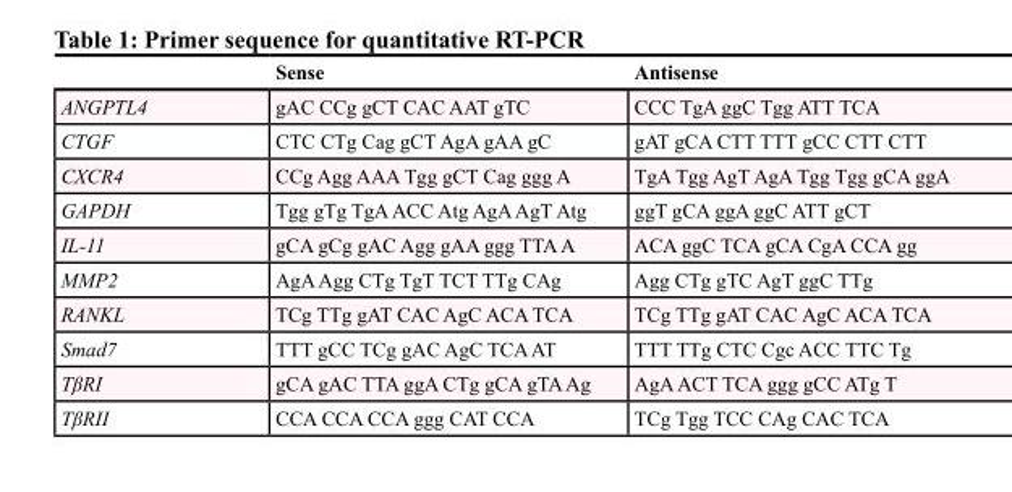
<table><thead><tr><td></td><td>Sense</td><td>Antisense</td></tr></thead><tbody><tr><td>ANGPTL4</td><td>gAC CCg gCT CAC AAT gTC</td><td>CCC TgA ggC Tgg ATT TCA</td></tr><tr><td>CTGF</td><td>CTC CTg Cag gCT AgA gAA gC</td><td>gAT gCA CTT TTT gCC CTT CTT</td></tr><tr><td>CXCR4</td><td>CCg Agg AAA Tgg gCT Cag ggg A</td><td>TgA Tgg AgT AgA Tgg Tgg gCA ggA</td></tr><tr><td>GAPDH</td><td>Tgg gTg TgA ACC Atg AgA AgT Atg</td><td>ggT gCA ggA ggC ATT gCT</td></tr><tr><td>IL-11</td><td>gCA gCg gAC Agg gAA ggg TTA A</td><td>ACA ggC TCA gCA CgA CCA gg</td></tr><tr><td>MMP2</td><td>AgA Agg CTg TgT TCT TTg CAg</td><td>Agg CTg gTC AgT ggC TTg</td></tr><tr><td>RANKL</td><td>TCg TTg gAT CAC AgC ACA TCA</td><td>TCg TTg gAT CAC AgC ACA TCA</td></tr><tr><td>Smad7</td><td>TTT gCC TCg gAC AgC TCA AT</td><td>TTT TTg CTC Cgc ACC TTC Tg</td></tr><tr><td>TβRI</td><td>gCA gAC TTA ggA CTg gCA gTA Ag</td><td>AgA ACT TCA ggg gCC ATg T</td></tr><tr><td>TβRII</td><td>CCA CCA CCA ggg CAT CCA</td><td>TCg Tgg TCC CAg CAC TCA</td></tr></tbody></table>